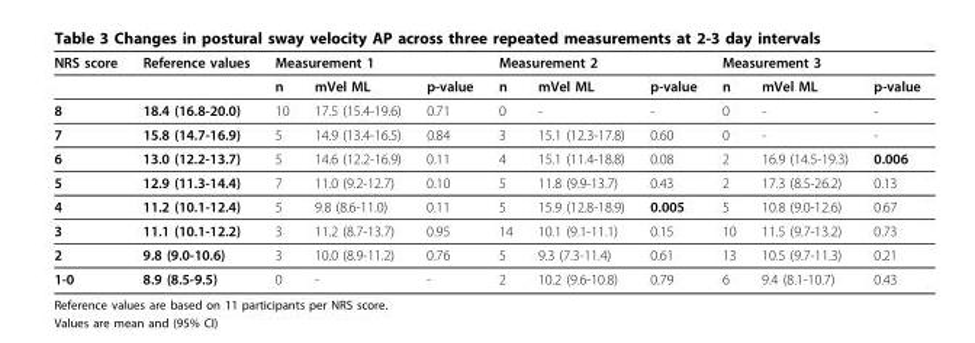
<table><thead><tr><td rowspan="2">NRS score</td><td rowspan="2">Reference values</td><td colspan="3">Measurement 1</td><td colspan="3">Measurement 2</td><td colspan="3">Measurement 3</td></tr><tr><td>n</td><td>mVel ML</td><td>p-value</td><td>n</td><td>mVel ML</td><td>p-value</td><td>n</td><td>mVel ML</td><td>p-value</td></tr></thead><tbody><tr><td>8</td><td>18.4 (16.8-20.0)</td><td>10</td><td>17.5 (15.4-19.6)</td><td>0.71</td><td>0</td><td>-</td><td>-</td><td>0</td><td>-</td><td>-</td></tr><tr><td>7</td><td>15.8 (14.7-16.9)</td><td>5</td><td>14.9 (13.4-16.5)</td><td>0.84</td><td>3</td><td>15.1 (12.3-17.8)</td><td>0.60</td><td>0</td><td>-</td><td>-</td></tr><tr><td>6</td><td>13.0 (12.2-13.7)</td><td>5</td><td>14.6 (12.2-16.9)</td><td>0.11</td><td>4</td><td>15.1 (11.4-18.8)</td><td>0.08</td><td>2</td><td>16.9 (14.5-19.3)</td><td>0.006</td></tr><tr><td>5</td><td>12.9 (11.3-14.4)</td><td>7</td><td>11.0 (9.2-12.7)</td><td>0.10</td><td>5</td><td>11.8 (9.9-13.7)</td><td>0.43</td><td>2</td><td>17.3 (8.5-26.2)</td><td>0.13</td></tr><tr><td>4</td><td>11.2 (10.1-12.4)</td><td>5</td><td>9.8 (8.6-11.0)</td><td>0.11</td><td>5</td><td>15.9 (12.8-18.9)</td><td>0.005</td><td>5</td><td>10.8 (9.0-12.6)</td><td>0.67</td></tr><tr><td>3</td><td>11.1 (10.1-12.2)</td><td>3</td><td>11.2 (8.7-13.7)</td><td>0.95</td><td>14</td><td>10.1 (9.1-11.1)</td><td>0.15</td><td>10</td><td>11.5 (9.7-13.2)</td><td>0.73</td></tr><tr><td>2</td><td>9.8 (9.0-10.6)</td><td>3</td><td>10.0 (8.9-11.2)</td><td>0.76</td><td>5</td><td>9.3 (7.3-11.4)</td><td>0.61</td><td>13</td><td>10.5 (9.7-11.3)</td><td>0.21</td></tr><tr><td>1-0</td><td>8.9 (8.5-9.5)</td><td>0</td><td>-</td><td>-</td><td>2</td><td>10.2 (9.6-10.8)</td><td>0.79</td><td>6</td><td>9.4 (8.1-10.7)</td><td>0.43</td></tr></tbody></table>